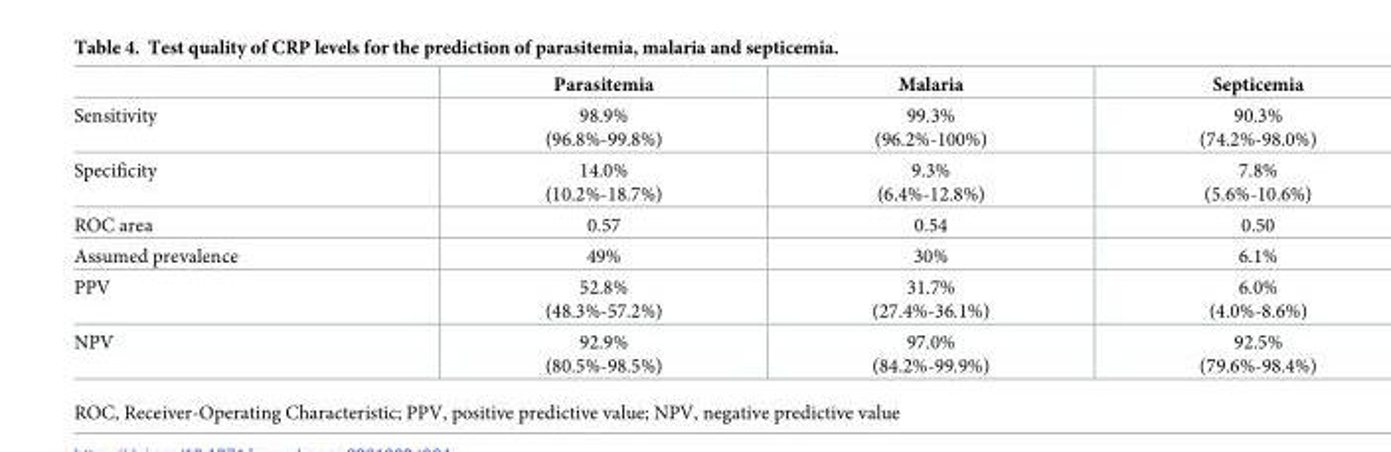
<table><thead><tr><td></td><td>Parasitemia</td><td>Malaria</td><td>Septicemia</td></tr></thead><tbody><tr><td>Sensitivity</td><td>98.9% (96.8%-99.8%)</td><td>99.3% (96.2%-100%)</td><td>90.3% (74.2%-98.0%)</td></tr><tr><td>Specificity</td><td>14.0% (10.2%-18.7%)</td><td>9.3% (6.4%-12.8%)</td><td>7.8% (5.6%-10.6%)</td></tr><tr><td>ROC area</td><td>0.57</td><td>0.54</td><td>0.50</td></tr><tr><td>Assumed prevalence</td><td>49%</td><td>30%</td><td>6.1%</td></tr><tr><td>PPV</td><td>52.8% (48.3%-57.2%)</td><td>31.7% (27.4%-36.1%)</td><td>6.0% (4.0%-8.6%)</td></tr><tr><td>NPV</td><td>92.9% (80.5%-98.5%)</td><td>97.0% (84.2%-99.9%)</td><td>92.5% (79.6%-98.4%)</td></tr></tbody></table>